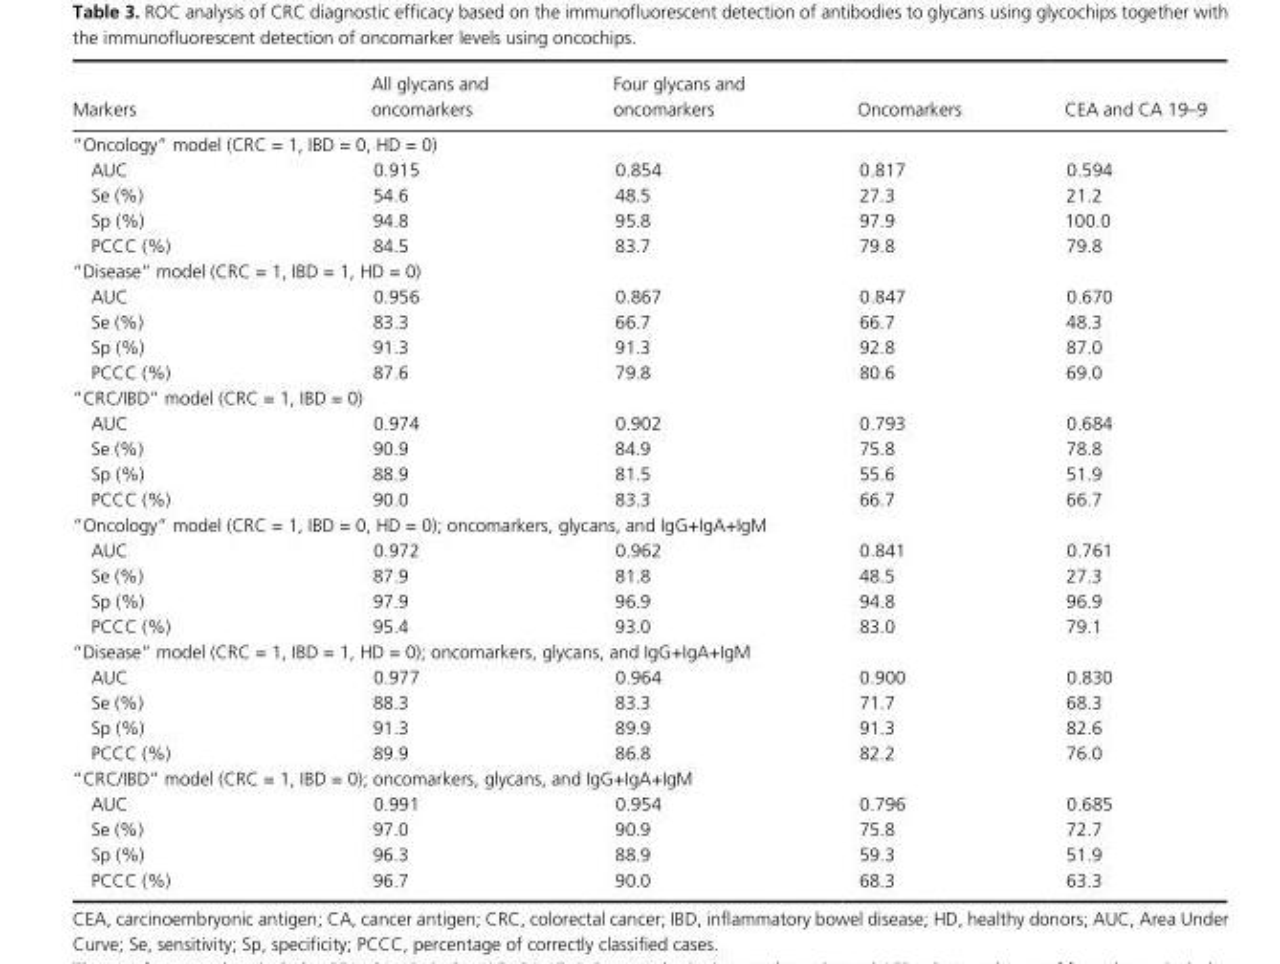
<table><thead><tr><td>Markers</td><td>All glycans and oncomarkers</td><td>Four glycans and oncomarkers</td><td>Oncomarkers</td><td>CEA and CA 19–9</td></tr></thead><tbody><tr><td colspan="5">“Oncology” model (CRC = 1, IBD = 0, HD = 0)</td></tr><tr><td>AUC</td><td>0.915</td><td>0.854</td><td>0.817</td><td>0.594</td></tr><tr><td>Se (%)</td><td>54.6</td><td>48.5</td><td>27.3</td><td>21.2</td></tr><tr><td>Sp (%)</td><td>94.8</td><td>95.8</td><td>97.9</td><td>100.0</td></tr><tr><td>PCCC (%)</td><td>84.5</td><td>83.7</td><td>79.8</td><td>79.8</td></tr><tr><td colspan="5">“Disease” model (CRC = 1, IBD = 1, HD = 0)</td></tr><tr><td>AUC</td><td>0.956</td><td>0.867</td><td>0.847</td><td>0.670</td></tr><tr><td>Se (%)</td><td>83.3</td><td>66.7</td><td>66.7</td><td>48.3</td></tr><tr><td>Sp (%)</td><td>91.3</td><td>91.3</td><td>92.8</td><td>87.0</td></tr><tr><td>PCCC (%)</td><td>87.6</td><td>79.8</td><td>80.6</td><td>69.0</td></tr><tr><td colspan="5">“CRC/IBD” model (CRC = 1, IBD = 0)</td></tr><tr><td>AUC</td><td>0.974</td><td>0.902</td><td>0.793</td><td>0.684</td></tr><tr><td>Se (%)</td><td>90.9</td><td>84.9</td><td>75.8</td><td>78.8</td></tr><tr><td>Sp (%)</td><td>88.9</td><td>81.5</td><td>55.6</td><td>51.9</td></tr><tr><td>PCCC (%)</td><td>90.0</td><td>83.3</td><td>66.7</td><td>66.7</td></tr><tr><td colspan="5">“Oncology” model (CRC = 1, IBD = 0, HD = 0); oncomarkers, glycans, and IgG+IgA+IgM</td></tr><tr><td>AUC</td><td>0.972</td><td>0.962</td><td>0.841</td><td>0.761</td></tr><tr><td>Se (%)</td><td>87.9</td><td>81.8</td><td>48.5</td><td>27.3</td></tr><tr><td>Sp (%)</td><td>97.9</td><td>96.9</td><td>94.8</td><td>96.9</td></tr><tr><td>PCCC (%)</td><td>95.4</td><td>93.0</td><td>83.0</td><td>79.1</td></tr><tr><td colspan="5">“Disease” model (CRC = 1, IBD = 1, HD = 0); oncomarkers, glycans, and IgG+IgA+IgM</td></tr><tr><td>AUC</td><td>0.977</td><td>0.964</td><td>0.900</td><td>0.830</td></tr><tr><td>Se (%)</td><td>88.3</td><td>83.3</td><td>71.7</td><td>68.3</td></tr><tr><td>Sp (%)</td><td>91.3</td><td>89.9</td><td>91.3</td><td>82.6</td></tr><tr><td>PCCC (%)</td><td>89.9</td><td>86.8</td><td>82.2</td><td>76.0</td></tr><tr><td colspan="5">“CRC/IBD” model (CRC = 1, IBD = 0); oncomarkers, glycans, and IgG+IgA+IgM</td></tr><tr><td>AUC</td><td>0.991</td><td>0.954</td><td>0.796</td><td>0.685</td></tr><tr><td>Se (%)</td><td>97.0</td><td>90.9</td><td>75.8</td><td>72.7</td></tr><tr><td>Sp (%)</td><td>96.3</td><td>88.9</td><td>59.3</td><td>51.9</td></tr><tr><td>PCCC (%)</td><td>96.7</td><td>90.0</td><td>68.3</td><td>63.3</td></tr></tbody></table>